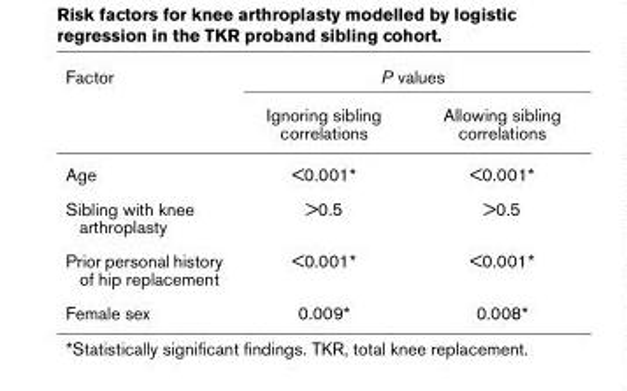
<table><thead><tr><td rowspan="2">Factor</td><td colspan="2">P values</td></tr><tr><td>Ignoring sibling correlations</td><td>Allowing sibling correlations</td></tr></thead><tbody><tr><td>Age</td><td>&lt;0.001*</td><td>&lt;0.001*</td></tr><tr><td>Sibling with knee arthroplasty</td><td>&gt;0.5</td><td>&gt;0.5</td></tr><tr><td>Prior personal history of hip replacement</td><td>&lt;0.001*</td><td>&lt;0.001*</td></tr><tr><td>Female sex</td><td>0.009*</td><td>0.008*</td></tr></tbody></table>